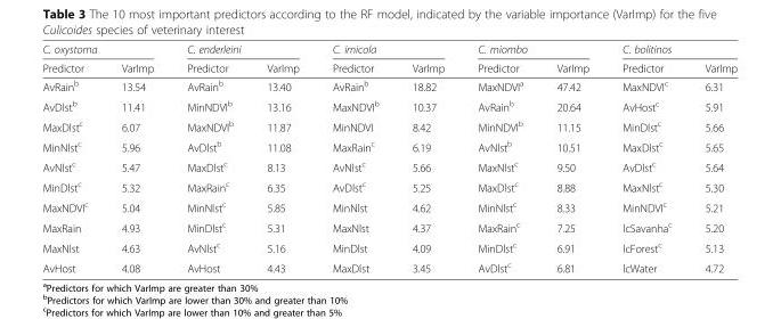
<table><thead><tr><td colspan="2">C. oxystoma</td><td colspan="2">C. enderleini</td><td colspan="2">C. imicola</td><td colspan="2">C. miombo</td><td colspan="2">C. bolitinos</td></tr><tr><td>Predictor</td><td>VarImp</td><td>Predictor</td><td>VarImp</td><td>Predictor</td><td>VarImp</td><td>Predictor</td><td>VarImp</td><td>Predictor</td><td>VarImp</td></tr></thead><tbody><tr><td>AvRain<sup>b</sup></td><td>13.54</td><td>AvRain<sup>b</sup></td><td>13.40</td><td>AvRain<sup>b</sup></td><td>18.82</td><td>MaxNDVI<sup>a</sup></td><td>47.42</td><td>MaxNDVI<sup>c</sup></td><td>6.31</td></tr><tr><td>AvDlst<sup>b</sup></td><td>11.41</td><td>MinNDVI<sup>b</sup></td><td>13.16</td><td>MaxNDVI<sup>b</sup></td><td>10.37</td><td>AvRain<sup>b</sup></td><td>20.64</td><td>AvHost<sup>c</sup></td><td>5.91</td></tr><tr><td>MaxDlst<sup>c</sup></td><td>6.07</td><td>MaxNDVI<sup>b</sup></td><td>11.87</td><td>MinNDVI</td><td>8.42</td><td>MinNDVI<sup>b</sup></td><td>11.15</td><td>MinDlst<sup>c</sup></td><td>5.66</td></tr><tr><td>MinNlst<sup>c</sup></td><td>5.96</td><td>AvDlst<sup>b</sup></td><td>11.08</td><td>MaxRain<sup>c</sup></td><td>6.19</td><td>AvNlst<sup>b</sup></td><td>10.51</td><td>MaxDlst<sup>c</sup></td><td>5.65</td></tr><tr><td>AvNlst<sup>c</sup></td><td>5.47</td><td>MaxDlst<sup>c</sup></td><td>8.13</td><td>AvNlst<sup>c</sup></td><td>5.66</td><td>MaxNlst<sup>c</sup></td><td>9.50</td><td>AvDlst<sup>c</sup></td><td>5.64</td></tr><tr><td>MinDlst<sup>c</sup></td><td>5.32</td><td>MaxRain<sup>c</sup></td><td>6.35</td><td>AvDlst<sup>c</sup></td><td>5.25</td><td>MaxDlst<sup>c</sup></td><td>8.88</td><td>MaxNlst<sup>c</sup></td><td>5.30</td></tr><tr><td>MaxNDVI<sup>c</sup></td><td>5.04</td><td>MinNlst<sup>c</sup></td><td>5.85</td><td>MinNlst</td><td>4.62</td><td>MinNlst<sup>c</sup></td><td>8.33</td><td>MinNDVI<sup>c</sup></td><td>5.21</td></tr><tr><td>MaxRain</td><td>4.93</td><td>MinDlst<sup>c</sup></td><td>5.31</td><td>MaxNlst</td><td>4.37</td><td>MaxRain<sup>c</sup></td><td>7.25</td><td>lcSavanha<sup>c</sup></td><td>5.20</td></tr><tr><td>MaxNlst</td><td>4.63</td><td>AvNlst<sup>c</sup></td><td>5.16</td><td>MinDlst</td><td>4.09</td><td>MinDlst<sup>c</sup></td><td>6.91</td><td>lcForest<sup>c</sup></td><td>5.13</td></tr><tr><td>AvHost</td><td>4.08</td><td>AvHost</td><td>4.43</td><td>MaxDlst</td><td>3.45</td><td>AvDlst<sup>c</sup></td><td>6.81</td><td>lcWater</td><td>4.72</td></tr></tbody></table>